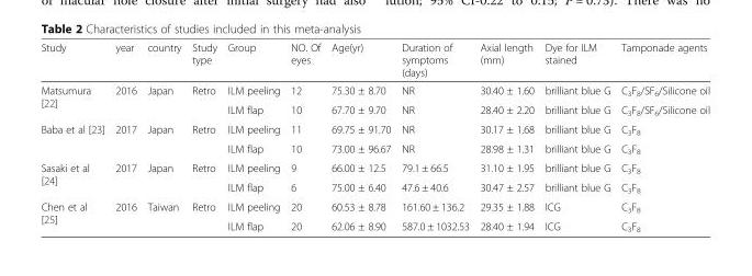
<table><thead><tr><td>Study</td><td>year</td><td>country</td><td>Study type</td><td>Group</td><td>NO. Of eyes</td><td>Age(yr)</td><td>Duration of symptoms (days)</td><td>Axial length (mm)</td><td>Dye for ILM stained</td><td>Tamponade agents</td></tr></thead><tbody><tr><td rowspan="2">Matsumura [22]</td><td>2016</td><td>Japan</td><td>Retro</td><td>ILM peeling</td><td>12</td><td>75.30 ± 8.70</td><td>NR</td><td>30.40 ± 1.60</td><td>brilliant blue G</td><td>C<sub>3</sub>F<sub>8</sub>/SF<sub>6</sub>/Silicone oil</td></tr><tr><td></td><td></td><td></td><td>ILM flap</td><td>10</td><td>67.70 ± 9.70</td><td>NR</td><td>28.40 ± 2.20</td><td>brilliant blue G</td><td>C<sub>3</sub>F<sub>8</sub>/SF<sub>6</sub>/Silicone oil</td></tr><tr><td rowspan="2">Baba et al [23]</td><td>2017</td><td>Japan</td><td>Retro</td><td>ILM peeling</td><td>11</td><td>69.75 ± 91.70</td><td>NR</td><td>30.17 ± 1.68</td><td>brilliant blue G</td><td>C<sub>3</sub>F<sub>8</sub></td></tr><tr><td></td><td></td><td></td><td>ILM flap</td><td>10</td><td>73.00 ± 96.67</td><td>NR</td><td>28.98 ± 1.31</td><td>brilliant blue G</td><td>C<sub>3</sub>F<sub>8</sub></td></tr><tr><td rowspan="2">Sasaki et al [24]</td><td>2017</td><td>Japan</td><td>Retro</td><td>ILM peeling</td><td>9</td><td>66.00 ± 12.5</td><td>79.1 ± 66.5</td><td>31.10 ± 1.95</td><td>brilliant blue G</td><td>C<sub>3</sub>F<sub>8</sub></td></tr><tr><td></td><td></td><td></td><td>ILM flap</td><td>6</td><td>75.00 ± 6.40</td><td>47.6 ± 40.6</td><td>30.47 ± 2.57</td><td>brilliant blue G</td><td>C<sub>3</sub>F<sub>8</sub></td></tr><tr><td rowspan="2">Chen et al [25]</td><td>2016</td><td>Taiwan</td><td>Retro</td><td>ILM peeling</td><td>20</td><td>60.53 ± 8.78</td><td>161.60 ± 136.2</td><td>29.35 ± 1.88</td><td>ICG</td><td>C<sub>3</sub>F<sub>8</sub></td></tr><tr><td></td><td></td><td></td><td>ILM flap</td><td>20</td><td>62.06 ± 8.90</td><td>587.0 ± 1032.53</td><td>28.40 ± 1.94</td><td>ICG</td><td>C<sub>3</sub>F<sub>8</sub></td></tr></tbody></table>